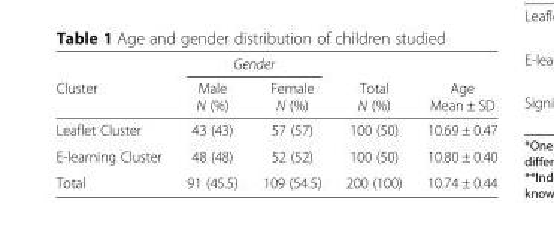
<table><thead><tr><td rowspan="2">Cluster</td><td colspan="2">Gender</td><td rowspan="2">Total N (%)</td><td rowspan="2">Age Mean ± SD</td></tr><tr><td>Male N (%)</td><td>Female N (%)</td></tr></thead><tbody><tr><td>Leaflet Cluster</td><td>43 (43)</td><td>57 (57)</td><td>100 (50)</td><td>10.69 ± 0.47</td></tr><tr><td>E-learning Cluster</td><td>48 (48)</td><td>52 (52)</td><td>100 (50)</td><td>10.80 ± 0.40</td></tr><tr><td>Total</td><td>91 (45.5)</td><td>109 (54.5)</td><td>200 (100)</td><td>10.74 ± 0.44</td></tr></tbody></table>